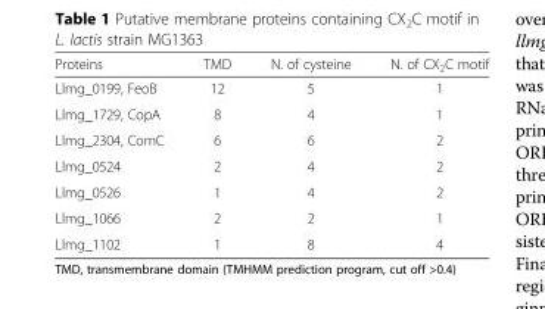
<table><thead><tr><td>Proteins</td><td>TMD</td><td>N. of cysteine</td><td>N. of CX<sub>2</sub>C motif</td></tr></thead><tbody><tr><td>Llmg_0199, FeoB</td><td>12</td><td>5</td><td>1</td></tr><tr><td>Llmg_1729, CopA</td><td>8</td><td>4</td><td>1</td></tr><tr><td>Llmg_2304, ComC</td><td>6</td><td>6</td><td>2</td></tr><tr><td>Llmg_0524</td><td>2</td><td>4</td><td>2</td></tr><tr><td>Llmg_0526</td><td>1</td><td>4</td><td>2</td></tr><tr><td>Llmg_1066</td><td>2</td><td>2</td><td>1</td></tr><tr><td>Llmg_1102</td><td>1</td><td>8</td><td>4</td></tr></tbody></table>